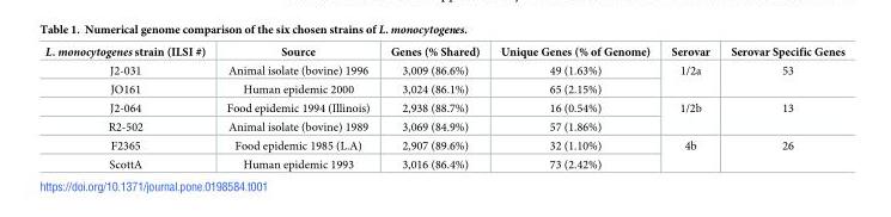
<table><thead><tr><td>L. monocytogenes strain (ILSI #)</td><td>Source</td><td>Genes (% Shared)</td><td>Unique Genes (% of Genome)</td><td>Serovar</td><td>Serovar Specific Genes</td></tr></thead><tbody><tr><td>J2-031</td><td>Animal isolate (bovine) 1996</td><td>3,009 (86.6%)</td><td>49 (1.63%)</td><td rowspan="2">1/2a</td><td rowspan="2">53</td></tr><tr><td>JO161</td><td>Human epidemic 2000</td><td>3,024 (86.1%)</td><td>65 (2.15%)</td></tr><tr><td>J2-064</td><td>Food epidemic 1994 (Illinois)</td><td>2,938 (88.7%)</td><td>16 (0.54%)</td><td rowspan="2">1/2b</td><td rowspan="2">13</td></tr><tr><td>R2-502</td><td>Animal isolate (bovine) 1989</td><td>3,069 (84.9%)</td><td>57 (1.86%)</td></tr><tr><td>F2365</td><td>Food epidemic 1985 (L.A)</td><td>2,907 (89.6%)</td><td>32 (1.10%)</td><td rowspan="2">4b</td><td rowspan="2">26</td></tr><tr><td>ScottA</td><td>Human epidemic 1993</td><td>3,016 (86.4%)</td><td>73 (2.42%)</td></tr></tbody></table>